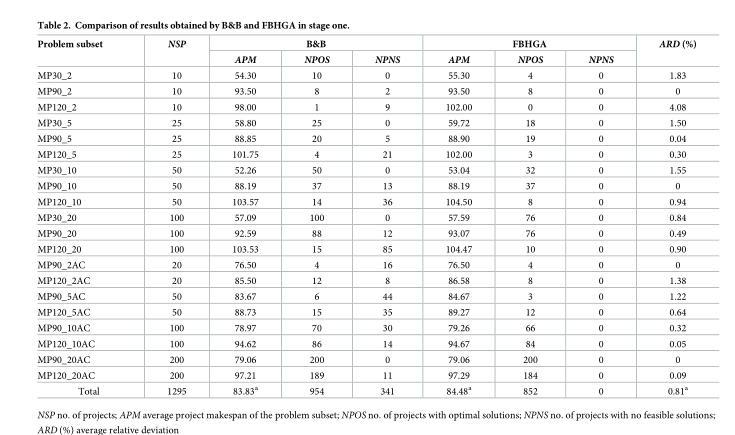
<table><thead><tr><td rowspan="2">Problem subset</td><td rowspan="2">NSP</td><td colspan="3">B&amp;B</td><td colspan="3">FBHGA</td><td rowspan="2">ARD (%)</td></tr><tr><td>APM</td><td>NPOS</td><td>NPNS</td><td>APM</td><td>NPOS</td><td>NPNS</td></tr></thead><tbody><tr><td>MP30_2</td><td>10</td><td>54.30</td><td>10</td><td>0</td><td>55.30</td><td>4</td><td>0</td><td>1.83</td></tr><tr><td>MP90_2</td><td>10</td><td>93.50</td><td>8</td><td>2</td><td>93.50</td><td>8</td><td>0</td><td>0</td></tr><tr><td>MP120_2</td><td>10</td><td>98.00</td><td>1</td><td>9</td><td>102.00</td><td>0</td><td>0</td><td>4.08</td></tr><tr><td>MP30_5</td><td>25</td><td>58.80</td><td>25</td><td>0</td><td>59.72</td><td>18</td><td>0</td><td>1.50</td></tr><tr><td>MP90_5</td><td>25</td><td>88.85</td><td>20</td><td>5</td><td>88.90</td><td>19</td><td>0</td><td>0.04</td></tr><tr><td>MP120_5</td><td>25</td><td>101.75</td><td>4</td><td>21</td><td>102.00</td><td>3</td><td>0</td><td>0.30</td></tr><tr><td>MP30_10</td><td>50</td><td>52.26</td><td>50</td><td>0</td><td>53.04</td><td>32</td><td>0</td><td>1.55</td></tr><tr><td>MP90_10</td><td>50</td><td>88.19</td><td>37</td><td>13</td><td>88.19</td><td>37</td><td>0</td><td>0</td></tr><tr><td>MP120_10</td><td>50</td><td>103.57</td><td>14</td><td>36</td><td>104.50</td><td>8</td><td>0</td><td>0.94</td></tr><tr><td>MP30_20</td><td>100</td><td>57.09</td><td>100</td><td>0</td><td>57.59</td><td>76</td><td>0</td><td>0.84</td></tr><tr><td>MP90_20</td><td>100</td><td>92.59</td><td>88</td><td>12</td><td>93.07</td><td>76</td><td>0</td><td>0.49</td></tr><tr><td>MP120_20</td><td>100</td><td>103.53</td><td>15</td><td>85</td><td>104.47</td><td>10</td><td>0</td><td>0.90</td></tr><tr><td>MP90_2AC</td><td>20</td><td>76.50</td><td>4</td><td>16</td><td>76.50</td><td>4</td><td>0</td><td>0</td></tr><tr><td>MP120_2AC</td><td>20</td><td>85.50</td><td>12</td><td>8</td><td>86.58</td><td>8</td><td>0</td><td>1.38</td></tr><tr><td>MP90_5AC</td><td>50</td><td>83.67</td><td>6</td><td>44</td><td>84.67</td><td>3</td><td>0</td><td>1.22</td></tr><tr><td>MP120_5AC</td><td>50</td><td>88.73</td><td>15</td><td>35</td><td>89.27</td><td>12</td><td>0</td><td>0.64</td></tr><tr><td>MP90_10AC</td><td>100</td><td>78.97</td><td>70</td><td>30</td><td>79.26</td><td>66</td><td>0</td><td>0.32</td></tr><tr><td>MP120_10AC</td><td>100</td><td>94.62</td><td>86</td><td>14</td><td>94.67</td><td>84</td><td>0</td><td>0.05</td></tr><tr><td>MP90_20AC</td><td>200</td><td>79.06</td><td>200</td><td>0</td><td>79.06</td><td>200</td><td>0</td><td>0</td></tr><tr><td>MP120_20AC</td><td>200</td><td>97.21</td><td>189</td><td>11</td><td>97.29</td><td>184</td><td>0</td><td>0.09</td></tr><tr><td>Total</td><td>1295</td><td>83.83<sup>a</sup></td><td>954</td><td>341</td><td>84.48<sup>a</sup></td><td>852</td><td>0</td><td>0.81<sup>a</sup></td></tr></tbody></table>